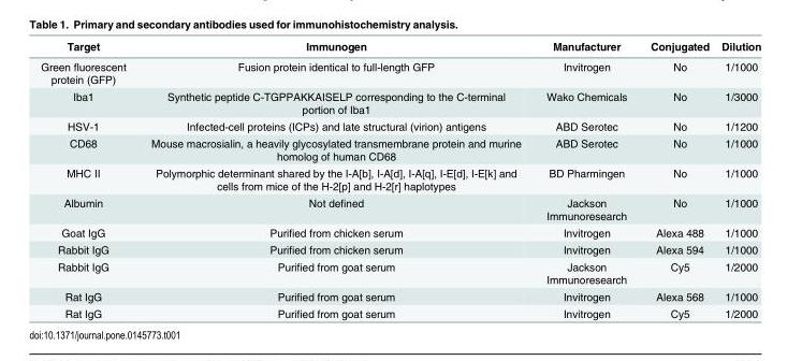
<table><thead><tr><td>Target</td><td>Immunogen</td><td>Manufacturer</td><td>Conjugated</td><td>Dilution</td></tr></thead><tbody><tr><td>Green fluorescent protein (GFP)</td><td>Fusion protein identical to full-length GFP</td><td>Invitrogen</td><td>No</td><td>1/1000</td></tr><tr><td>Iba1</td><td>Synthetic peptide C-TGPPAKKAISELP corresponding to the C-terminal portion of Iba1</td><td>Wako Chemicals</td><td>No</td><td>1/3000</td></tr><tr><td>HSV-1</td><td>Infected-cell proteins (ICPs) and late structural (virion) antigens</td><td>ABD Serotec</td><td>No</td><td>1/1200</td></tr><tr><td>CD68</td><td>Mouse macrosialin, a heavily glycosylated transmembrane protein and murine homolog of human CD68</td><td>ABD Serotec</td><td>No</td><td>1/1000</td></tr><tr><td>MHC II</td><td>Polymorphic determinant shared by the I-A[b], I-A[d], I-A[q], I-E[d], I-E[k] and cells from mice of the H-2[p] and H-2[r] haplotypes</td><td>BD Pharmingen</td><td>No</td><td>1/1000</td></tr><tr><td>Albumin</td><td>Not defined</td><td>Jackson Immunoresearch</td><td>No</td><td>1/1000</td></tr><tr><td>Goat IgG</td><td>Purified from chicken serum</td><td>Invitrogen</td><td>Alexa 488</td><td>1/1000</td></tr><tr><td>Rabbit IgG</td><td>Purified from chicken serum</td><td>Invitrogen</td><td>Alexa 594</td><td>1/1000</td></tr><tr><td>Rabbit IgG</td><td>Purified from goat serum</td><td>Jackson Immunoresearch</td><td>Cy5</td><td>1/2000</td></tr><tr><td>Rat IgG</td><td>Purified from goat serum</td><td>Invitrogen</td><td>Alexa 568</td><td>1/1000</td></tr><tr><td>Rat IgG</td><td>Purified from goat serum</td><td>Invitrogen</td><td>Cy5</td><td>1/2000</td></tr></tbody></table>